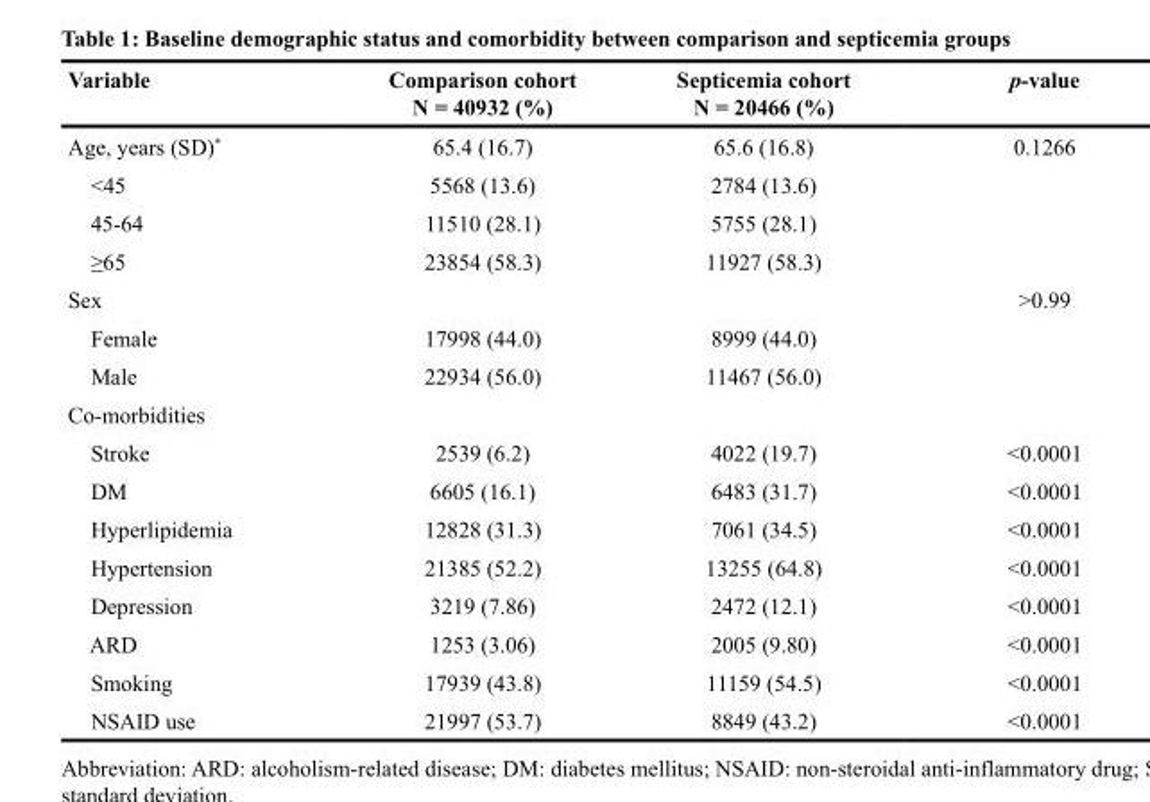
<table><thead><tr><td>Variable</td><td>Comparison cohort N = 40932 (%)</td><td>Septicemia cohort N = 20466 (%)</td><td>p-value</td></tr></thead><tbody><tr><td>Age, years (SD)*</td><td>65.4 (16.7)</td><td>65.6 (16.8)</td><td>0.1266</td></tr><tr><td>&lt;45</td><td>5568 (13.6)</td><td>2784 (13.6)</td><td></td></tr><tr><td>45-64</td><td>11510 (28.1)</td><td>5755 (28.1)</td><td></td></tr><tr><td>≥65</td><td>23854 (58.3)</td><td>11927 (58.3)</td><td></td></tr><tr><td>Sex</td><td></td><td></td><td>&gt;0.99</td></tr><tr><td>Female</td><td>17998 (44.0)</td><td>8999 (44.0)</td><td></td></tr><tr><td>Male</td><td>22934 (56.0)</td><td>11467 (56.0)</td><td></td></tr><tr><td colspan="4">Co-morbidities</td></tr><tr><td>Stroke</td><td>2539 (6.2)</td><td>4022 (19.7)</td><td>&lt;0.0001</td></tr><tr><td>DM</td><td>6605 (16.1)</td><td>6483 (31.7)</td><td>&lt;0.0001</td></tr><tr><td>Hyperlipidemia</td><td>12828 (31.3)</td><td>7061 (34.5)</td><td>&lt;0.0001</td></tr><tr><td>Hypertension</td><td>21385 (52.2)</td><td>13255 (64.8)</td><td>&lt;0.0001</td></tr><tr><td>Depression</td><td>3219 (7.86)</td><td>2472 (12.1)</td><td>&lt;0.0001</td></tr><tr><td>ARD</td><td>1253 (3.06)</td><td>2005 (9.80)</td><td>&lt;0.0001</td></tr><tr><td>Smoking</td><td>17939 (43.8)</td><td>11159 (54.5)</td><td>&lt;0.0001</td></tr><tr><td>NSAID use</td><td>21997 (53.7)</td><td>8849 (43.2)</td><td>&lt;0.0001</td></tr></tbody></table>